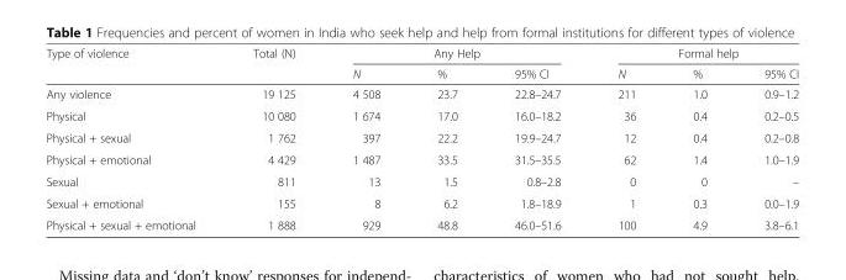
<table><thead><tr><td rowspan="2">Type of violence</td><td rowspan="2">Total (N)</td><td colspan="3">Any Help</td><td colspan="3">Formal help</td></tr><tr><td>N</td><td>%</td><td>95% CI</td><td>N</td><td>%</td><td>95% CI</td></tr></thead><tbody><tr><td>Any violence</td><td>19 125</td><td>4 508</td><td>23.7</td><td>22.8–24.7</td><td>211</td><td>1.0</td><td>0.9–1.2</td></tr><tr><td>Physical</td><td>10 080</td><td>1 674</td><td>17.0</td><td>16.0–18.2</td><td>36</td><td>0.4</td><td>0.2–0.5</td></tr><tr><td>Physical + sexual</td><td>1 762</td><td>397</td><td>22.2</td><td>19.9–24.7</td><td>12</td><td>0.4</td><td>0.2–0.8</td></tr><tr><td>Physical + emotional</td><td>4 429</td><td>1 487</td><td>33.5</td><td>31.5–35.5</td><td>62</td><td>1.4</td><td>1.0–1.9</td></tr><tr><td>Sexual</td><td>811</td><td>13</td><td>1.5</td><td>0.8–2.8</td><td>0</td><td>0</td><td>–</td></tr><tr><td>Sexual + emotional</td><td>155</td><td>8</td><td>6.2</td><td>1.8–18.9</td><td>1</td><td>0.3</td><td>0.0–1.9</td></tr><tr><td>Physical + sexual + emotional</td><td>1 888</td><td>929</td><td>48.8</td><td>46.0–51.6</td><td>100</td><td>4.9</td><td>3.8–6.1</td></tr></tbody></table>